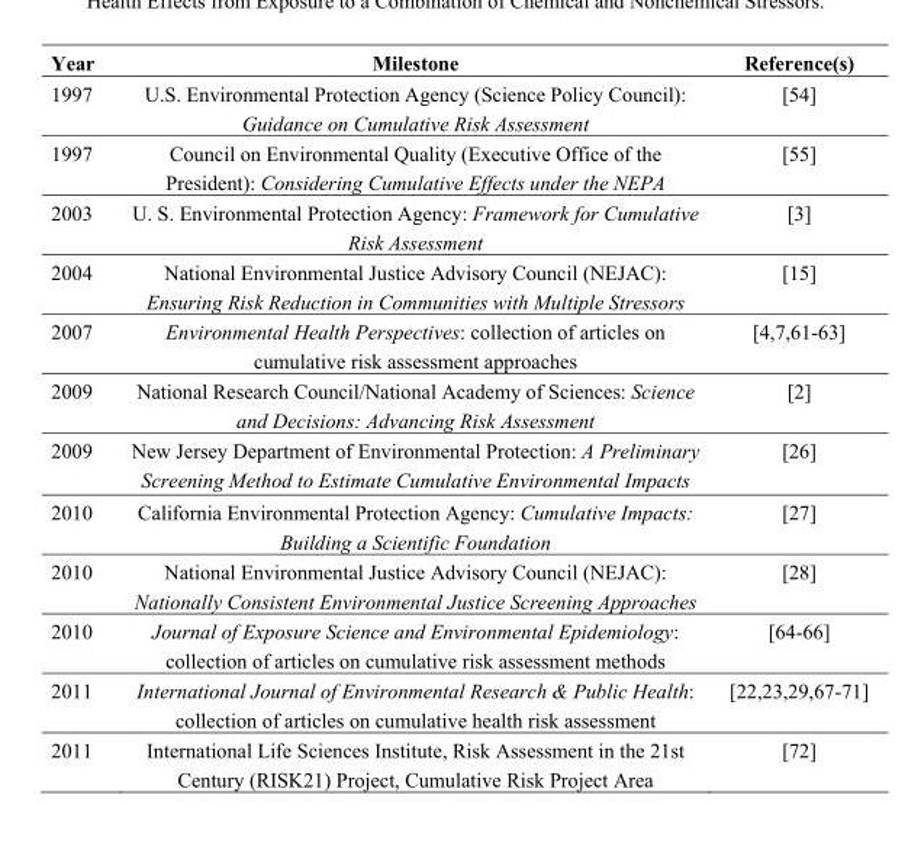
<table><thead><tr><td>Year</td><td>Milestone</td><td>Reference(s)</td></tr></thead><tbody><tr><td>1997</td><td>U.S. Environmental Protection Agency (Science Policy Council): Guidance on Cumulative Risk Assessment</td><td>[54]</td></tr><tr><td>1997</td><td>Council on Environmental Quality (Executive Office of the President): Considering Cumulative Effects under the NEPA</td><td>[55]</td></tr><tr><td>2003</td><td>U. S. Environmental Protection Agency: Framework for Cumulative Risk Assessment</td><td>[3]</td></tr><tr><td>2004</td><td>National Environmental Justice Advisory Council (NEJAC): Ensuring Risk Reduction in Communities with Multiple Stressors</td><td>[15]</td></tr><tr><td>2007</td><td>Environmental Health Perspectives: collection of articles on cumulative risk assessment approaches</td><td>[4,7,61-63]</td></tr><tr><td>2009</td><td>National Research Council/National Academy of Sciences: Science and Decisions: Advancing Risk Assessment</td><td>[2]</td></tr><tr><td>2009</td><td>New Jersey Department of Environmental Protection: A Preliminary Screening Method to Estimate Cumulative Environmental Impacts</td><td>[26]</td></tr><tr><td>2010</td><td>California Environmental Protection Agency: Cumulative Impacts: Building a Scientific Foundation</td><td>[27]</td></tr><tr><td>2010</td><td>National Environmental Justice Advisory Council (NEJAC): Nationally Consistent Environmental Justice Screening Approaches</td><td>[28]</td></tr><tr><td>2010</td><td>Journal of Exposure Science and Environmental Epidemiology: collection of articles on cumulative risk assessment methods</td><td>[64-66]</td></tr><tr><td>2011</td><td>International Journal of Environmental Research &amp; Public Health: collection of articles on cumulative health risk assessment</td><td>[22,23,29,67-71]</td></tr><tr><td>2011</td><td>International Life Sciences Institute, Risk Assessment in the 21st Century (RISK21) Project, Cumulative Risk Project Area</td><td>[72]</td></tr></tbody></table>